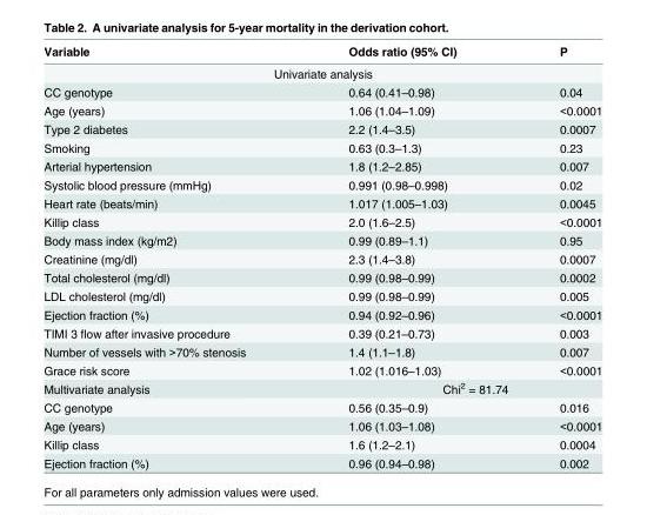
<table><thead><tr><td>Variable</td><td>Odds ratio (95% CI)</td><td>P</td></tr></thead><tbody><tr><td colspan="3">Univariate analysis</td></tr><tr><td>CC genotype</td><td>0.64 (0.41–0.98)</td><td>0.04</td></tr><tr><td>Age (years)</td><td>1.06 (1.04–1.09)</td><td>&lt;0.0001</td></tr><tr><td>Type 2 diabetes</td><td>2.2 (1.4–3.5)</td><td>0.0007</td></tr><tr><td>Smoking</td><td>0.63 (0.3–1.3)</td><td>0.23</td></tr><tr><td>Arterial hypertension</td><td>1.8 (1.2–2.85)</td><td>0.007</td></tr><tr><td>Systolic blood pressure (mmHg)</td><td>0.991 (0.98–0.998)</td><td>0.02</td></tr><tr><td>Heart rate (beats/min)</td><td>1.017 (1.005–1.03)</td><td>0.0045</td></tr><tr><td>Killip class</td><td>2.0 (1.6–2.5)</td><td>&lt;0.0001</td></tr><tr><td>Body mass index (kg/m2)</td><td>0.99 (0.89–1.1)</td><td>0.95</td></tr><tr><td>Creatinine (mg/dl)</td><td>2.3 (1.4–3.8)</td><td>0.0007</td></tr><tr><td>Total cholesterol (mg/dl)</td><td>0.99 (0.98–0.99)</td><td>0.0002</td></tr><tr><td>LDL cholesterol (mg/dl)</td><td>0.99 (0.98–0.99)</td><td>0.005</td></tr><tr><td>Ejection fraction (%)</td><td>0.94 (0.92–0.96)</td><td>&lt;0.0001</td></tr><tr><td>TIMI 3 flow after invasive procedure</td><td>0.39 (0.21–0.73)</td><td>0.003</td></tr><tr><td>Number of vessels with &gt;70% stenosis</td><td>1.4 (1.1–1.8)</td><td>0.007</td></tr><tr><td>Grace risk score</td><td>1.02 (1.016–1.03)</td><td>&lt;0.0001</td></tr><tr><td>Multivariate analysis</td><td colspan="2">Chi<sup>2</sup> = 81.74</td></tr><tr><td>CC genotype</td><td>0.56 (0.35–0.9)</td><td>0.016</td></tr><tr><td>Age (years)</td><td>1.06 (1.03–1.08)</td><td>&lt;0.0001</td></tr><tr><td>Killip class</td><td>1.6 (1.2–2.1)</td><td>0.0004</td></tr><tr><td>Ejection fraction (%)</td><td>0.96 (0.94–0.98)</td><td>0.002</td></tr></tbody></table>